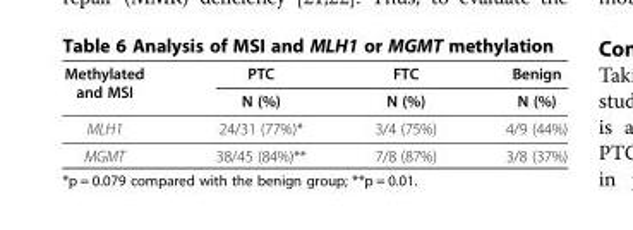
<table><thead><tr><td rowspan="2">Methylated and MSI</td><td rowspan="2">PTC N (%)</td><td rowspan="2">FTC N (%)</td><td rowspan="2">Benign N (%)</td></tr><tr></tr></thead><tbody><tr><td>MLH1</td><td>24/31 (77%)*</td><td>3/4 (75%)</td><td>4/9 (44%)</td></tr><tr><td>MGMT</td><td>38/45 (84%)**</td><td>7/8 (87%)</td><td>3/8 (37%)</td></tr></tbody></table>